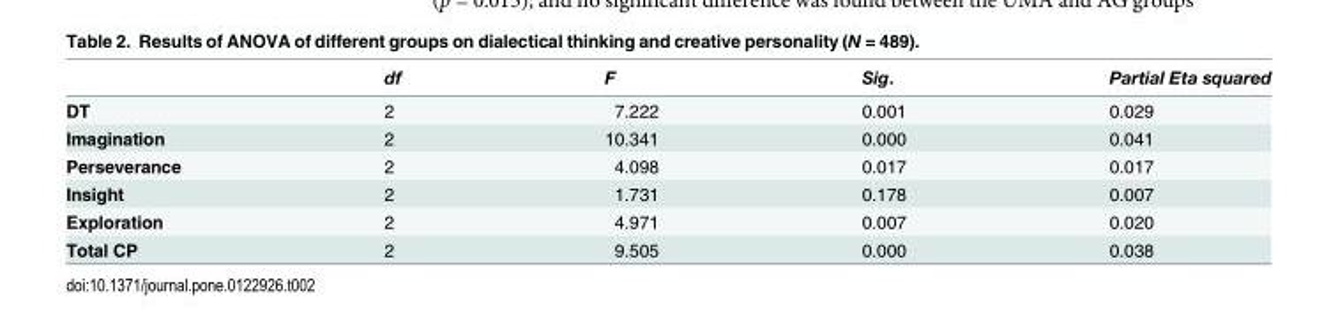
<table><thead><tr><td></td><td>df</td><td>F</td><td>Sig.</td><td>Partial Eta squared</td></tr></thead><tbody><tr><td>DT</td><td>2</td><td>7.222</td><td>0.001</td><td>0.029</td></tr><tr><td>Imagination</td><td>2</td><td>10.341</td><td>0.000</td><td>0.041</td></tr><tr><td>Perseverance</td><td>2</td><td>4.098</td><td>0.017</td><td>0.017</td></tr><tr><td>Insight</td><td>2</td><td>1.731</td><td>0.178</td><td>0.007</td></tr><tr><td>Exploration</td><td>2</td><td>4.971</td><td>0.007</td><td>0.020</td></tr><tr><td>Total CP</td><td>2</td><td>9.505</td><td>0.000</td><td>0.038</td></tr></tbody></table>